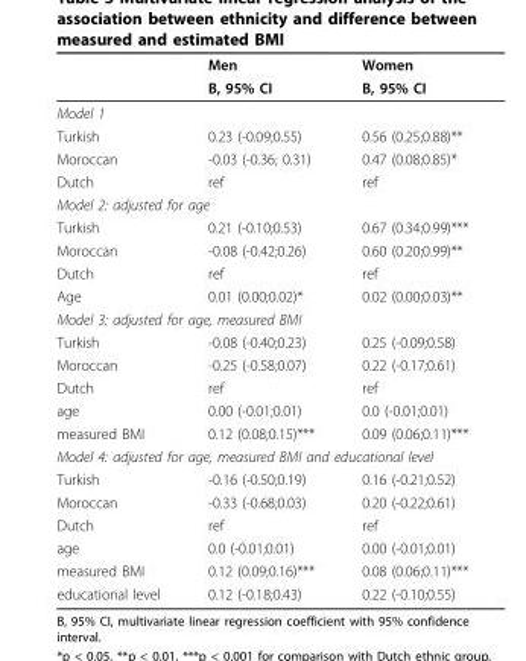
<table><thead><tr><td rowspan="2"></td><td rowspan="2">Men B, 95% CI</td><td rowspan="2">Women B, 95% CI</td></tr><tr></tr></thead><tbody><tr><td colspan="3">Model 1</td></tr><tr><td>Turkish</td><td>0.23 (-0.09;0.55)</td><td>0.56 (0.25;0.88)**</td></tr><tr><td>Moroccan</td><td>-0.03 (-0.36; 0.31)</td><td>0.47 (0.08;0.85)*</td></tr><tr><td>Dutch</td><td>ref</td><td>ref</td></tr><tr><td colspan="3">Model 2: adjusted for age</td></tr><tr><td>Turkish</td><td>0.21 (-0.10;0.53)</td><td>0.67 (0.34;0.99)***</td></tr><tr><td>Moroccan</td><td>-0.08 (-0.42;0.26)</td><td>0.60 (0.20;0.99)**</td></tr><tr><td>Dutch</td><td>ref</td><td>ref</td></tr><tr><td>Age</td><td>0.01 (0.00;0.02)*</td><td>0.02 (0.00;0.03)**</td></tr><tr><td colspan="3">Model 3: adjusted for age, measured BMI</td></tr><tr><td>Turkish</td><td>-0.08 (-0.40;0.23)</td><td>0.25 (-0.09;0.58)</td></tr><tr><td>Moroccan</td><td>-0.25 (-0.58;0.07)</td><td>0.22 (-0.17;0.61)</td></tr><tr><td>Dutch</td><td>ref</td><td>ref</td></tr><tr><td>age</td><td>0.00 (-0.01;0.01)</td><td>0.0 (-0.01;0.01)</td></tr><tr><td>measured BMI</td><td>0.12 (0.08;0.15)***</td><td>0.09 (0.06;0.11)***</td></tr><tr><td colspan="3">Model 4: adjusted for age, measured BMI and educational level</td></tr><tr><td>Turkish</td><td>-0.16 (-0.50;0.19)</td><td>0.16 (-0.21;0.52)</td></tr><tr><td>Moroccan</td><td>-0.33 (-0.68;0.03)</td><td>0.20 (-0.22;0.61)</td></tr><tr><td>Dutch</td><td>ref</td><td>ref</td></tr><tr><td>age</td><td>0.0 (-0.01;0.01)</td><td>0.00 (-0.01;0.01)</td></tr><tr><td>measured BMI</td><td>0.12 (0.09;0.16)***</td><td>0.08 (0.06;0.11)***</td></tr><tr><td>educational level</td><td>0.12 (-0.18;0.43)</td><td>0.22 (-0.10;0.55)</td></tr></tbody></table>